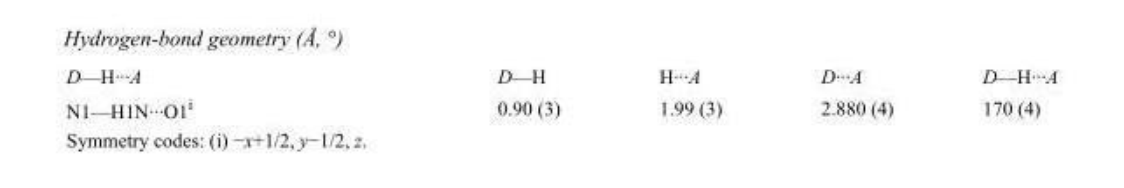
<table><tbody><tr><td>D—H···A</td><td>D—H</td><td>H···A</td><td>D···A</td><td>D—H···A</td></tr><tr><td>N1—H1N···O1<sup>i</sup></td><td>0.90 (3)</td><td>1.99 (3)</td><td>2.880 (4)</td><td>170 (4)</td></tr></tbody></table>